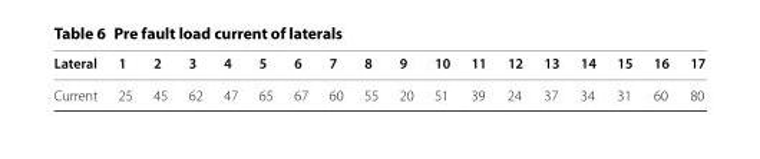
<table><thead><tr><td>Lateral</td><td>1</td><td>2</td><td>3</td><td>4</td><td>5</td><td>6</td><td>7</td><td>8</td><td>9</td><td>10</td><td>11</td><td>12</td><td>13</td><td>14</td><td>15</td><td>16</td><td>17</td></tr></thead><tbody><tr><td>Current</td><td>25</td><td>45</td><td>62</td><td>47</td><td>65</td><td>67</td><td>60</td><td>55</td><td>20</td><td>51</td><td>39</td><td>24</td><td>37</td><td>34</td><td>31</td><td>60</td><td>80</td></tr></tbody></table>